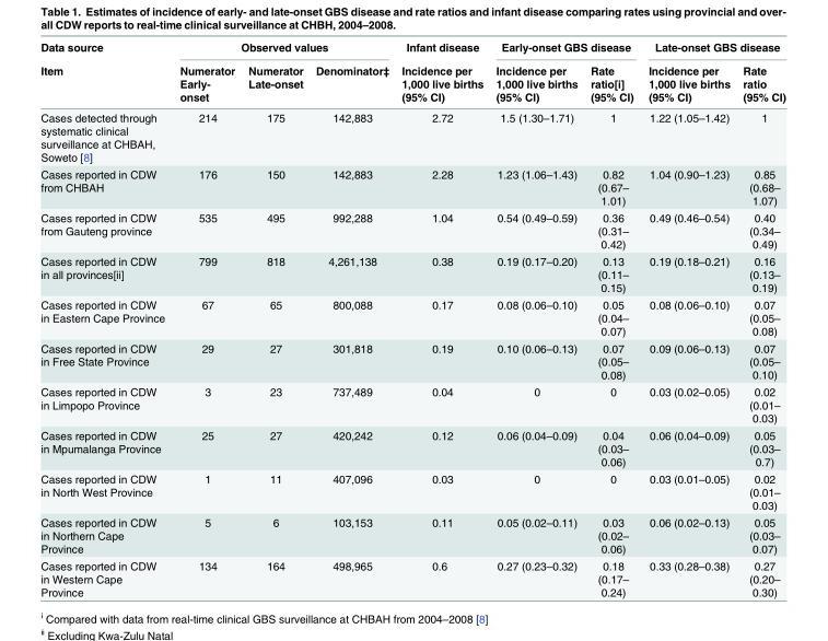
<table><thead><tr><td rowspan="3">Data source Item</td><td colspan="3">Observed values</td><td rowspan="3">Infant disease Incidence per 1,000 live births (95% CI)</td><td colspan="2">Early-onset GBS disease</td><td colspan="2">Late-onset GBS disease</td></tr><tr><td rowspan="2">Numerator Early- onset</td><td rowspan="2">Numerator Late-onset</td><td rowspan="2">Denominator‡</td><td rowspan="2">Incidence per 1,000 live births (95% CI)</td><td rowspan="2">Rate ratio[i] (95% CI)</td><td rowspan="2">Incidence per 1,000 live births (95% CI)</td><td rowspan="2">Rate ratio (95% CI)</td></tr><tr></tr></thead><tbody><tr><td>Cases detected through systematic clinical surveillance at CHBAH, Soweto [8]</td><td>214</td><td>175</td><td>142,883</td><td>2.72</td><td>1.5 (1.30–1.71)</td><td>1</td><td>1.22 (1.05–1.42)</td><td>1</td></tr><tr><td>Cases reported in CDW from CHBAH</td><td>176</td><td>150</td><td>142,883</td><td>2.28</td><td>1.23 (1.06–1.43)</td><td>0.82 (0.67– 1.01)</td><td>1.04 (0.90–1.23)</td><td>0.85 (0.68– 1.07)</td></tr><tr><td>Cases reported in CDW from Gauteng province</td><td>535</td><td>495</td><td>992,288</td><td>1.04</td><td>0.54 (0.49–0.59)</td><td>0.36 (0.31– 0.42)</td><td>0.49 (0.46–0.54)</td><td>0.40 (0.34– 0.49)</td></tr><tr><td>Cases reported in CDW in all provinces[ii]</td><td>799</td><td>818</td><td>4,261,138</td><td>0.38</td><td>0.19 (0.17–0.20)</td><td>0.13 (0.11– 0.15)</td><td>0.19 (0.18–0.21)</td><td>0.16 (0.13– 0.19)</td></tr><tr><td>Cases reported in CDW in Eastern Cape Province</td><td>67</td><td>65</td><td>800,088</td><td>0.17</td><td>0.08 (0.06–0.10)</td><td>0.05 (0.04– 0.07)</td><td>0.08 (0.06–0.10)</td><td>0.07 (0.05– 0.08)</td></tr><tr><td>Cases reported in CDW in Free State Province</td><td>29</td><td>27</td><td>301,818</td><td>0.19</td><td>0.10 (0.06–0.13)</td><td>0.07 (0.05– 0.08)</td><td>0.09 (0.06–0.13)</td><td>0.07 (0.05– 0.10)</td></tr><tr><td>Cases reported in CDW in Limpopo Province</td><td>3</td><td>23</td><td>737,489</td><td>0.04</td><td>0</td><td>0</td><td>0.03 (0.02–0.05)</td><td>0.02 (0.01– 0.03)</td></tr><tr><td>Cases reported in CDW in Mpumalanga Province</td><td>25</td><td>27</td><td>420,242</td><td>0.12</td><td>0.06 (0.04–0.09)</td><td>0.04 (0.03– 0.06)</td><td>0.06 (0.04–0.09)</td><td>0.05 (0.03– 0.7)</td></tr><tr><td>Cases reported in CDW in North West Province</td><td>1</td><td>11</td><td>407,096</td><td>0.03</td><td>0</td><td>0</td><td>0.03 (0.01–0.05)</td><td>0.02 (0.01– 0.03)</td></tr><tr><td>Cases reported in CDW in Northern Cape Province</td><td>5</td><td>6</td><td>103,153</td><td>0.11</td><td>0.05 (0.02–0.11)</td><td>0.03 (0.02– 0.06)</td><td>0.06 (0.02–0.13)</td><td>0.05 (0.03– 0.07)</td></tr><tr><td>Cases reported in CDW in Western Cape Province</td><td>134</td><td>164</td><td>498,965</td><td>0.6</td><td>0.27 (0.23–0.32)</td><td>0.18 (0.17– 0.24)</td><td>0.33 (0.28–0.38)</td><td>0.27 (0.20– 0.30)</td></tr></tbody></table>